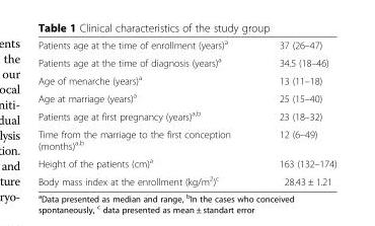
<table><tbody><tr><td>Patients age at the time of enrollment (years)<sup>a</sup></td><td>37 (26–47)</td></tr><tr><td>Patients age at the time of diagnosis (years)<sup>a</sup></td><td>34.5 (18–46)</td></tr><tr><td>Age of menarche (years)<sup>a</sup></td><td>13 (11–18)</td></tr><tr><td>Age at marriage (years)<sup>a</sup></td><td>25 (15–40)</td></tr><tr><td>Patients age at first pregnancy (years)<sup>a,b</sup></td><td>23 (18–32)</td></tr><tr><td>Time from the marriage to the first conception (months)<sup>a,b</sup></td><td>12 (6–49)</td></tr><tr><td>Height of the patients (cm)<sup>a</sup></td><td>163 (132–174)</td></tr><tr><td>Body mass index at the enrollment (kg/m<sup>2</sup>)<sup>c</sup></td><td>28.43 ± 1.21</td></tr></tbody></table>